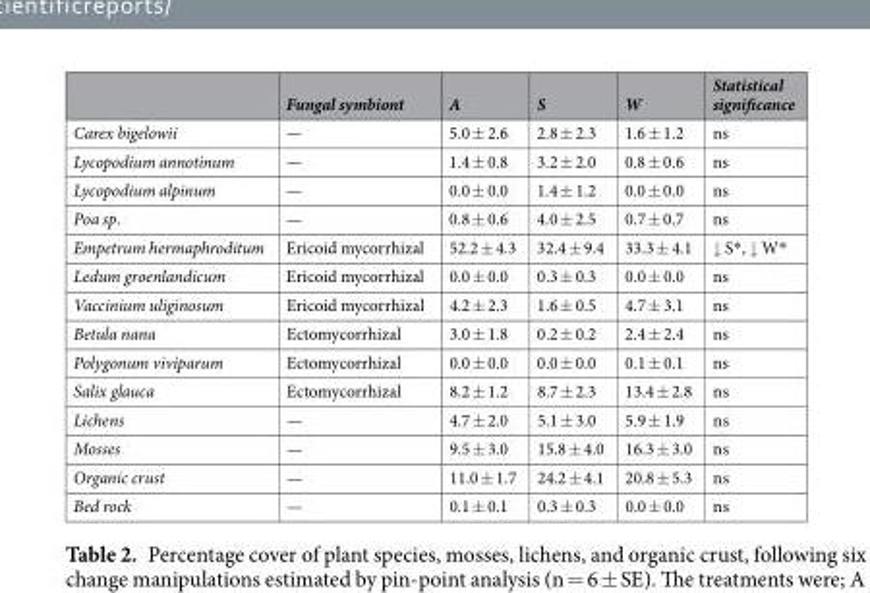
<table><thead><tr><td></td><td>Fungal symbiont</td><td>A</td><td>S</td><td>W</td><td>Statistical significance</td></tr></thead><tbody><tr><td>Carex bigelowii</td><td>—</td><td>5.0 ± 2.6</td><td>2.8 ± 2.3</td><td>1.6 ± 1.2</td><td>ns</td></tr><tr><td>Lycopodium annotinum</td><td>—</td><td>1.4 ± 0.8</td><td>3.2 ± 2.0</td><td>0.8 ± 0.6</td><td>ns</td></tr><tr><td>Lycopodium alpinum</td><td>—</td><td>0.0 ± 0.0</td><td>1.4 ± 1.2</td><td>0.0 ± 0.0</td><td>ns</td></tr><tr><td>Poa sp.</td><td>—</td><td>0.8 ± 0.6</td><td>4.0 ± 2.5</td><td>0.7 ± 0.7</td><td>ns</td></tr><tr><td>Empetrum hermaphroditum</td><td>Ericoid mycorrhizal</td><td>52.2 ± 4.3</td><td>32.4 ± 9.4</td><td>33.3 ± 4.1</td><td>↓ S*, ↓ W*</td></tr><tr><td>Ledum groenlandicum</td><td>Ericoid mycorrhizal</td><td>0.0 ± 0.0</td><td>0.3 ± 0.3</td><td>0.0 ± 0.0</td><td>ns</td></tr><tr><td>Vaccinium uliginosum</td><td>Ericoid mycorrhizal</td><td>4.2 ± 2.3</td><td>1.6 ± 0.5</td><td>4.7 ± 3.1</td><td>ns</td></tr><tr><td>Betula nana</td><td>Ectomycorrhizal</td><td>3.0 ± 1.8</td><td>0.2 ± 0.2</td><td>2.4 ± 2.4</td><td>ns</td></tr><tr><td>Polygonum viviparum</td><td>Ectomycorrhizal</td><td>0.0 ± 0.0</td><td>0.0 ± 0.0</td><td>0.1 ± 0.1</td><td>ns</td></tr><tr><td>Salix glauca</td><td>Ectomycorrhizal</td><td>8.2 ± 1.2</td><td>8.7 ± 2.3</td><td>13.4 ± 2.8</td><td>ns</td></tr><tr><td>Lichens</td><td>—</td><td>4.7 ± 2.0</td><td>5.1 ± 3.0</td><td>5.9 ± 1.9</td><td>ns</td></tr><tr><td>Mosses</td><td>—</td><td>9.5 ± 3.0</td><td>15.8 ± 4.0</td><td>16.3 ± 3.0</td><td>ns</td></tr><tr><td>Organic crust</td><td>—</td><td>11.0 ± 1.7</td><td>24.2 ± 4.1</td><td>20.8 ± 5.3</td><td>ns</td></tr><tr><td>Bed rock</td><td>—</td><td>0.1 ± 0.1</td><td>0.3 ± 0.3</td><td>0.0 ± 0.0</td><td>ns</td></tr></tbody></table>